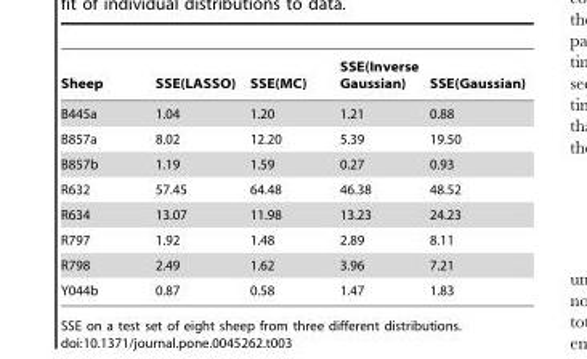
<table><thead><tr><td>Sheep</td><td>SSE(LASSO)</td><td>SSE(MC)</td><td>SSE(Inverse Gaussian)</td><td>SSE(Gaussian)</td></tr></thead><tbody><tr><td>B445a</td><td>1.04</td><td>1.20</td><td>1.21</td><td>0.88</td></tr><tr><td>B857a</td><td>8.02</td><td>12.20</td><td>5.39</td><td>19.50</td></tr><tr><td>B857b</td><td>1.19</td><td>1.59</td><td>0.27</td><td>0.93</td></tr><tr><td>R632</td><td>57.45</td><td>64.48</td><td>46.38</td><td>48.52</td></tr><tr><td>R634</td><td>13.07</td><td>11.98</td><td>13.23</td><td>24.23</td></tr><tr><td>R797</td><td>1.92</td><td>1.48</td><td>2.89</td><td>8.11</td></tr><tr><td>R798</td><td>2.49</td><td>1.62</td><td>3.96</td><td>7.21</td></tr><tr><td>Y044b</td><td>0.87</td><td>0.58</td><td>1.47</td><td>1.83</td></tr></tbody></table>